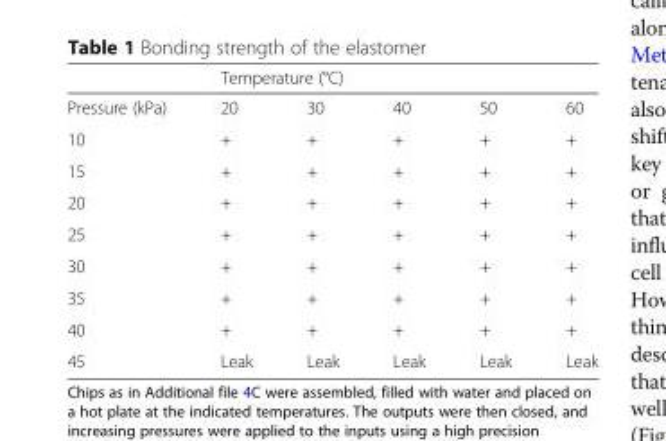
<table><thead><tr><td rowspan="2">Pressure (kPa)</td><td colspan="5">Temperature (°C)</td></tr><tr><td>20</td><td>30</td><td>40</td><td>50</td><td>60</td></tr></thead><tbody><tr><td>10</td><td>+</td><td>+</td><td>+</td><td>+</td><td>+</td></tr><tr><td>15</td><td>+</td><td>+</td><td>+</td><td>+</td><td>+</td></tr><tr><td>20</td><td>+</td><td>+</td><td>+</td><td>+</td><td>+</td></tr><tr><td>25</td><td>+</td><td>+</td><td>+</td><td>+</td><td>+</td></tr><tr><td>30</td><td>+</td><td>+</td><td>+</td><td>+</td><td>+</td></tr><tr><td>35</td><td>+</td><td>+</td><td>+</td><td>+</td><td>+</td></tr><tr><td>40</td><td>+</td><td>+</td><td>+</td><td>+</td><td>+</td></tr><tr><td>45</td><td>Leak</td><td>Leak</td><td>Leak</td><td>Leak</td><td>Leak</td></tr></tbody></table>